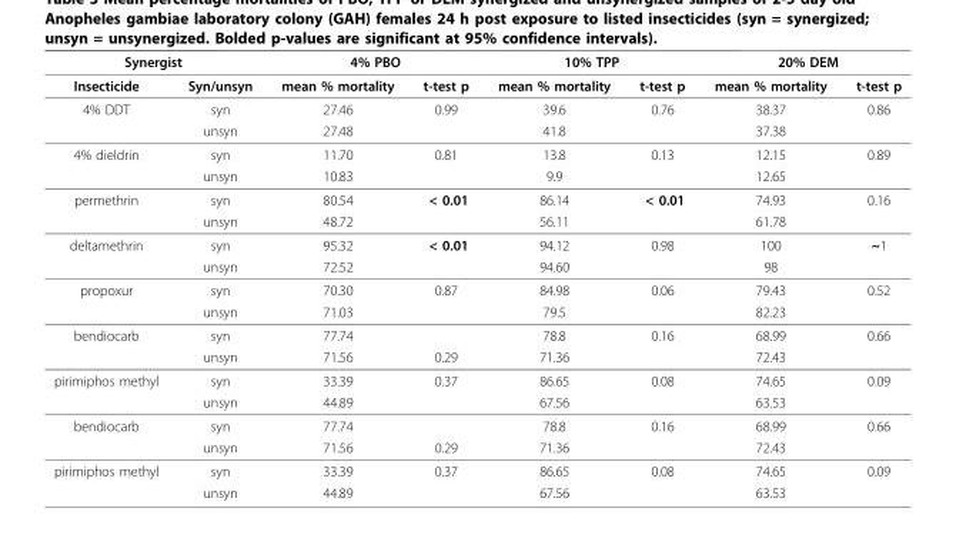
<table><thead><tr><td colspan="2">Synergist</td><td colspan="2">4% PBO</td><td colspan="2">10% TPP</td><td colspan="2">20% DEM</td></tr><tr><td>Insecticide</td><td>Syn/unsyn</td><td>mean % mortality</td><td>t-test p</td><td>mean % mortality</td><td>t-test p</td><td>mean % mortality</td><td>t-test p</td></tr></thead><tbody><tr><td rowspan="2">4% DDT</td><td>syn</td><td>27.46</td><td>0.99</td><td>39.6</td><td>0.76</td><td>38.37</td><td>0.86</td></tr><tr><td>unsyn</td><td>27.48</td><td></td><td>41.8</td><td></td><td>37.38</td><td></td></tr><tr><td rowspan="2">4% dieldrin</td><td>syn</td><td>11.70</td><td>0.81</td><td>13.8</td><td>0.13</td><td>12.15</td><td>0.89</td></tr><tr><td>unsyn</td><td>10.83</td><td></td><td>9.9</td><td></td><td>12.65</td><td></td></tr><tr><td rowspan="2">permethrin</td><td>syn</td><td>80.54</td><td>&lt; 0.01</td><td>86.14</td><td>&lt; 0.01</td><td>74.93</td><td>0.16</td></tr><tr><td>unsyn</td><td>48.72</td><td></td><td>56.11</td><td></td><td>61.78</td><td></td></tr><tr><td rowspan="2">deltamethrin</td><td>syn</td><td>95.32</td><td>&lt; 0.01</td><td>94.12</td><td>0.98</td><td>100</td><td>~1</td></tr><tr><td>unsyn</td><td>72.52</td><td></td><td>94.60</td><td></td><td>98</td><td></td></tr><tr><td rowspan="2">propoxur</td><td>syn</td><td>70.30</td><td>0.87</td><td>84.98</td><td>0.06</td><td>79.43</td><td>0.52</td></tr><tr><td>unsyn</td><td>71.03</td><td></td><td>79.5</td><td></td><td>82.23</td><td></td></tr><tr><td rowspan="2">bendiocarb</td><td>syn</td><td>77.74</td><td></td><td>78.8</td><td>0.16</td><td>68.99</td><td>0.66</td></tr><tr><td>unsyn</td><td>71.56</td><td>0.29</td><td>71.36</td><td></td><td>72.43</td><td></td></tr><tr><td rowspan="2">pirimiphos methyl</td><td>syn</td><td>33.39</td><td>0.37</td><td>86.65</td><td>0.08</td><td>74.65</td><td>0.09</td></tr><tr><td>unsyn</td><td>44.89</td><td></td><td>67.56</td><td></td><td>63.53</td><td></td></tr><tr><td rowspan="2">bendiocarb</td><td>syn</td><td>77.74</td><td></td><td>78.8</td><td>0.16</td><td>68.99</td><td>0.66</td></tr><tr><td>unsyn</td><td>71.56</td><td>0.29</td><td>71.36</td><td></td><td>72.43</td><td></td></tr><tr><td rowspan="2">pirimiphos methyl</td><td>syn</td><td>33.39</td><td>0.37</td><td>86.65</td><td>0.08</td><td>74.65</td><td>0.09</td></tr><tr><td>unsyn</td><td>44.89</td><td></td><td>67.56</td><td></td><td>63.53</td><td></td></tr></tbody></table>